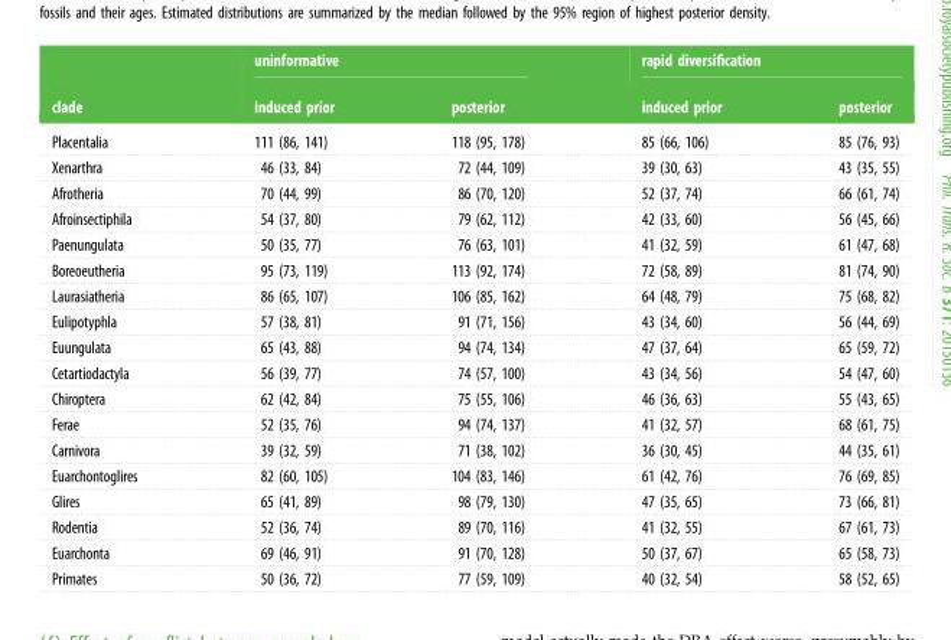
<table><thead><tr><td rowspan="2">clade</td><td colspan="2">uninformative</td><td colspan="2">rapid diversification</td></tr><tr><td>induced prior</td><td>posterior</td><td>induced prior</td><td>posterior</td></tr></thead><tbody><tr><td>Placentalia</td><td>111 (86, 141)</td><td>118 (95, 178)</td><td>85 (66, 106)</td><td>85 (76, 93)</td></tr><tr><td>Xenarthra</td><td>46 (33, 84)</td><td>72 (44, 109)</td><td>39 (30, 63)</td><td>43 (35, 55)</td></tr><tr><td>Afrotheria</td><td>70 (44, 99)</td><td>86 (70, 120)</td><td>52 (37, 74)</td><td>66 (61, 74)</td></tr><tr><td>Afroinsectiphila</td><td>54 (37, 80)</td><td>79 (62, 112)</td><td>42 (33, 60)</td><td>56 (45, 66)</td></tr><tr><td>Paenungulata</td><td>50 (35, 77)</td><td>76 (63, 101)</td><td>41 (32, 59)</td><td>61 (47, 68)</td></tr><tr><td>Boreoeutheria</td><td>95 (73, 119)</td><td>113 (92, 174)</td><td>72 (58, 89)</td><td>81 (74, 90)</td></tr><tr><td>Laurasiatheria</td><td>86 (65, 107)</td><td>106 (85, 162)</td><td>64 (48, 79)</td><td>75 (68, 82)</td></tr><tr><td>Eulipotyphla</td><td>57 (38, 81)</td><td>91 (71, 156)</td><td>43 (34, 60)</td><td>56 (44, 69)</td></tr><tr><td>Euungulata</td><td>65 (43, 88)</td><td>94 (74, 134)</td><td>47 (37, 64)</td><td>65 (59, 72)</td></tr><tr><td>Cetartiodactyla</td><td>56 (39, 77)</td><td>74 (57, 100)</td><td>43 (34, 56)</td><td>54 (47, 60)</td></tr><tr><td>Chiroptera</td><td>62 (42, 84)</td><td>75 (55, 106)</td><td>46 (36, 63)</td><td>55 (43, 65)</td></tr><tr><td>Ferae</td><td>52 (35, 76)</td><td>94 (74, 137)</td><td>41 (32, 57)</td><td>68 (61, 75)</td></tr><tr><td>Carnivora</td><td>39 (32, 59)</td><td>71 (38, 102)</td><td>36 (30, 45)</td><td>44 (35, 61)</td></tr><tr><td>Euarchontoglires</td><td>82 (60, 105)</td><td>104 (83, 146)</td><td>61 (42, 76)</td><td>76 (69, 85)</td></tr><tr><td>Glires</td><td>65 (41, 89)</td><td>98 (79, 130)</td><td>47 (35, 65)</td><td>73 (66, 81)</td></tr><tr><td>Rodentia</td><td>52 (36, 74)</td><td>89 (70, 116)</td><td>41 (32, 55)</td><td>67 (61, 73)</td></tr><tr><td>Euarchonta</td><td>69 (46, 91)</td><td>91 (70, 128)</td><td>50 (37, 67)</td><td>65 (58, 73)</td></tr><tr><td>Primates</td><td>50 (36, 72)</td><td>77 (59, 109)</td><td>40 (32, 54)</td><td>58 (52, 65)</td></tr></tbody></table>